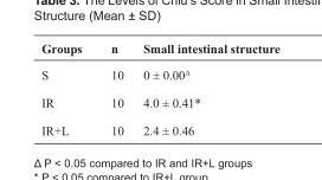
<table><thead><tr><td>Groups</td><td>n</td><td>Small intestinal structure</td></tr></thead><tbody><tr><td>S</td><td>10</td><td>0 ± 0.00<sup>Δ</sup></td></tr><tr><td>IR</td><td>10</td><td>4.0 ± 0.41*</td></tr><tr><td>IR+L</td><td>10</td><td>2.4 ± 0.46</td></tr></tbody></table>